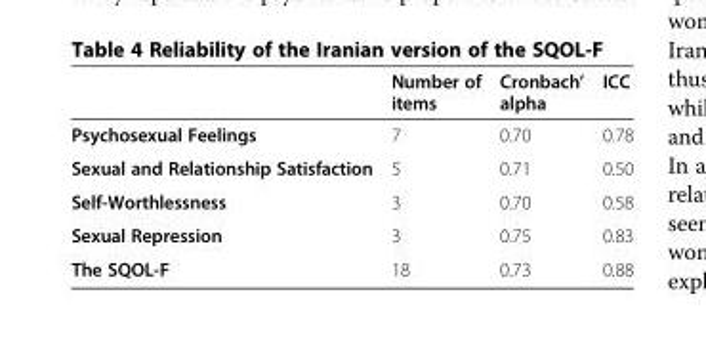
<table><thead><tr><td></td><td>Number of items</td><td>Cronbach’ alpha</td><td>ICC</td></tr></thead><tbody><tr><td>Psychosexual Feelings</td><td>7</td><td>0.70</td><td>0.78</td></tr><tr><td>Sexual and Relationship Satisfaction</td><td>5</td><td>0.71</td><td>0.50</td></tr><tr><td>Self-Worthlessness</td><td>3</td><td>0.70</td><td>0.58</td></tr><tr><td>Sexual Repression</td><td>3</td><td>0.75</td><td>0.83</td></tr><tr><td>The SQOL-F</td><td>18</td><td>0.73</td><td>0.88</td></tr></tbody></table>